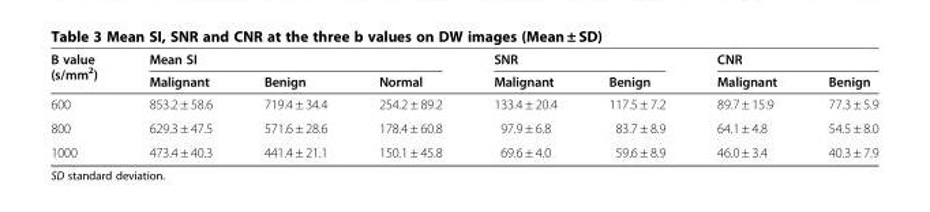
<table><thead><tr><td rowspan="2">B value (s/mm<sup>2</sup>)</td><td colspan="3">Mean SI</td><td colspan="2">SNR</td><td colspan="2">CNR</td></tr><tr><td>Malignant</td><td>Benign</td><td>Normal</td><td>Malignant</td><td>Benign</td><td>Malignant</td><td>Benign</td></tr></thead><tbody><tr><td>600</td><td>853.2 ± 58.6</td><td>719.4 ± 34.4</td><td>254.2 ± 89.2</td><td>133.4 ± 20.4</td><td>117.5 ± 7.2</td><td>89.7 ± 15.9</td><td>77.3 ± 5.9</td></tr><tr><td>800</td><td>629.3 ± 47.5</td><td>571.6 ± 28.6</td><td>178.4 ± 60.8</td><td>97.9 ± 6.8</td><td>83.7 ± 8.9</td><td>64.1 ± 4.8</td><td>54.5 ± 8.0</td></tr><tr><td>1000</td><td>473.4 ± 40.3</td><td>441.4 ± 21.1</td><td>150.1 ± 45.8</td><td>69.6 ± 4.0</td><td>59.6 ± 8.9</td><td>46.0 ± 3.4</td><td>40.3 ± 7.9</td></tr></tbody></table>